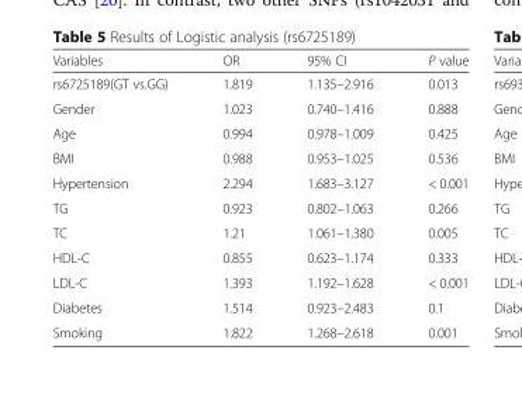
<table><thead><tr><td>Variables</td><td>OR</td><td>95% CI</td><td>P value</td></tr></thead><tbody><tr><td>rs6725189(GT vs.GG)</td><td>1.819</td><td>1.135–2.916</td><td>0.013</td></tr><tr><td>Gender</td><td>1.023</td><td>0.740–1.416</td><td>0.888</td></tr><tr><td>Age</td><td>0.994</td><td>0.978–1.009</td><td>0.425</td></tr><tr><td>BMI</td><td>0.988</td><td>0.953–1.025</td><td>0.536</td></tr><tr><td>Hypertension</td><td>2.294</td><td>1.683–3.127</td><td>&lt; 0.001</td></tr><tr><td>TG</td><td>0.923</td><td>0.802–1.063</td><td>0.266</td></tr><tr><td>TC</td><td>1.21</td><td>1.061–1.380</td><td>0.005</td></tr><tr><td>HDL-C</td><td>0.855</td><td>0.623–1.174</td><td>0.333</td></tr><tr><td>LDL-C</td><td>1.393</td><td>1.192–1.628</td><td>&lt; 0.001</td></tr><tr><td>Diabetes</td><td>1.514</td><td>0.923–2.483</td><td>0.1</td></tr><tr><td>Smoking</td><td>1.822</td><td>1.268–2.618</td><td>0.001</td></tr></tbody></table>